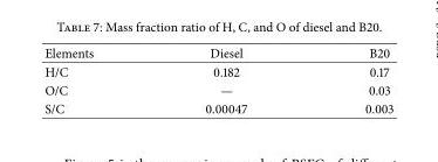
<table><thead><tr><td>Elements</td><td>Diesel</td><td>B20</td></tr></thead><tbody><tr><td>H/C</td><td>0.182</td><td>0.17</td></tr><tr><td>O/C</td><td>—</td><td>0.03</td></tr><tr><td>S/C</td><td>0.00047</td><td>0.003</td></tr></tbody></table>